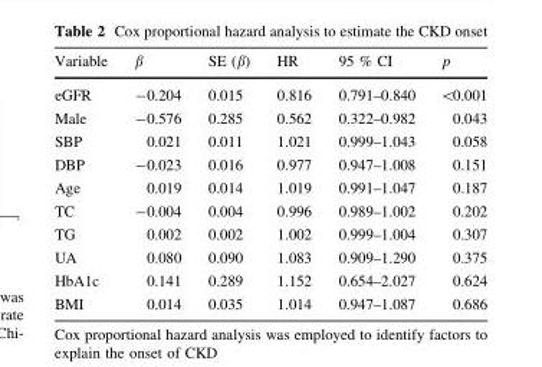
<table><thead><tr><td>Variable</td><td>β</td><td>SE (β)</td><td>HR</td><td>95 % CI</td><td>p</td></tr></thead><tbody><tr><td>eGFR</td><td>-0.204</td><td>0.015</td><td>0.816</td><td>0.791–0.840</td><td>&lt;0.001</td></tr><tr><td>Male</td><td>-0.576</td><td>0.285</td><td>0.562</td><td>0.322–0.982</td><td>0.043</td></tr><tr><td>SBP</td><td>0.021</td><td>0.011</td><td>1.021</td><td>0.999–1.043</td><td>0.058</td></tr><tr><td>DBP</td><td>-0.023</td><td>0.016</td><td>0.977</td><td>0.947–1.008</td><td>0.151</td></tr><tr><td>Age</td><td>0.019</td><td>0.014</td><td>1.019</td><td>0.991–1.047</td><td>0.187</td></tr><tr><td>TC</td><td>-0.004</td><td>0.004</td><td>0.996</td><td>0.989–1.002</td><td>0.202</td></tr><tr><td>TG</td><td>0.002</td><td>0.002</td><td>1.002</td><td>0.999–1.004</td><td>0.307</td></tr><tr><td>UA</td><td>0.080</td><td>0.090</td><td>1.083</td><td>0.909–1.290</td><td>0.375</td></tr><tr><td>HbA1c</td><td>0.141</td><td>0.289</td><td>1.152</td><td>0.654–2.027</td><td>0.624</td></tr><tr><td>BMI</td><td>0.014</td><td>0.035</td><td>1.014</td><td>0.947–1.087</td><td>0.686</td></tr></tbody></table>